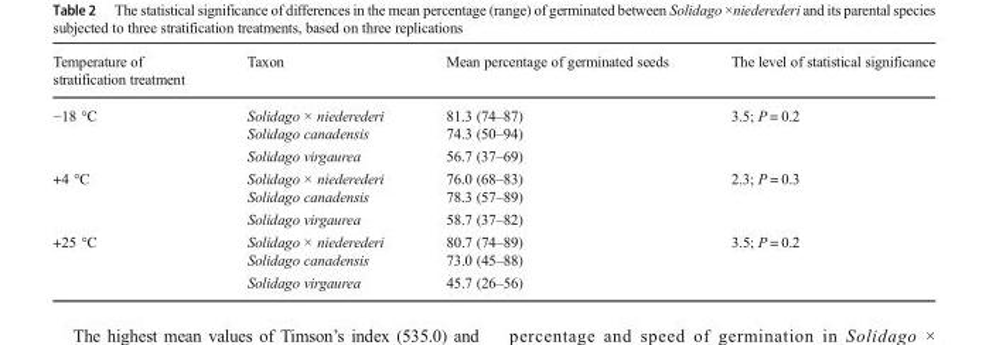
<table><thead><tr><td>Temperature of stratification treatment</td><td>Taxon</td><td>Mean percentage of germinated seeds</td><td>The level of statistical significance</td></tr></thead><tbody><tr><td rowspan="3">−18 °C</td><td>Solidago × niederederi</td><td>81.3 (74–87)</td><td rowspan="3">3.5; P = 0.2</td></tr><tr><td>Solidago canadensis</td><td>74.3 (50–94)</td></tr><tr><td>Solidago virgaurea</td><td>56.7 (37–69)</td></tr><tr><td rowspan="3">+4 °C</td><td>Solidago × niederederi</td><td>76.0 (68–83)</td><td rowspan="3">2.3; P = 0.3</td></tr><tr><td>Solidago canadensis</td><td>78.3 (57–89)</td></tr><tr><td>Solidago virgaurea</td><td>58.7 (37–82)</td></tr><tr><td rowspan="3">+25 °C</td><td>Solidago × niederederi</td><td>80.7 (74–89)</td><td rowspan="3">3.5; P = 0.2</td></tr><tr><td>Solidago canadensis</td><td>73.0 (45–88)</td></tr><tr><td>Solidago virgaurea</td><td>45.7 (26–56)</td></tr></tbody></table>